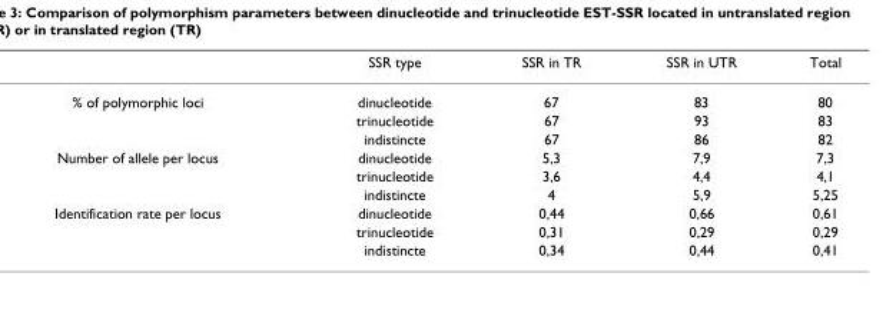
<table><thead><tr><td></td><td>SSR type</td><td>SSR in TR</td><td>SSR in UTR</td><td>Total</td></tr></thead><tbody><tr><td rowspan="3">% of polymorphic loci</td><td>dinucleotide</td><td>67</td><td>83</td><td>80</td></tr><tr><td>trinucleotide</td><td>67</td><td>93</td><td>83</td></tr><tr><td>indistincte</td><td>67</td><td>86</td><td>82</td></tr><tr><td rowspan="3">Number of allele per locus</td><td>dinucleotide</td><td>5,3</td><td>7,9</td><td>7,3</td></tr><tr><td>trinucleotide</td><td>3,6</td><td>4,4</td><td>4,1</td></tr><tr><td>indistincte</td><td>4</td><td>5,9</td><td>5,25</td></tr><tr><td rowspan="3">Identification rate per locus</td><td>dinucleotide</td><td>0,44</td><td>0,66</td><td>0,61</td></tr><tr><td>trinucleotide</td><td>0,31</td><td>0,29</td><td>0,29</td></tr><tr><td>indistincte</td><td>0,34</td><td>0,44</td><td>0,41</td></tr></tbody></table>